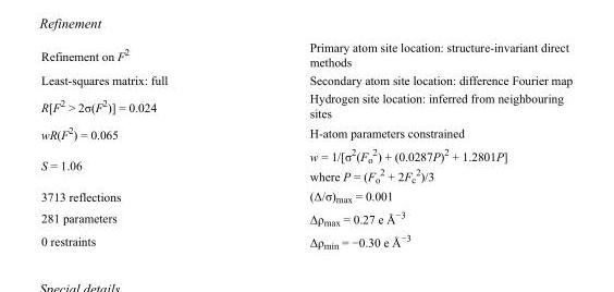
<table><tbody><tr><td>Refinement on F<sup>2</sup></td><td>Primary atom site location: structure-invariant direct methods</td></tr><tr><td>Least-squares matrix: full</td><td>Secondary atom site location: difference Fourier map</td></tr><tr><td>R[F<sup>2</sup> &gt; 2σ(F<sup>2</sup>)] = 0.024</td><td>Hydrogen site location: inferred from neighbouring sites</td></tr><tr><td>wR(F<sup>2</sup>) = 0.065</td><td>H-atom parameters constrained</td></tr><tr><td>S = 1.06</td><td>w = 1/[σ<sup>2</sup>(F<sub>o</sub> <sup>2</sup>) + (0.0287P)<sup>2</sup> + 1.2801P] where P = (F<sub>o</sub> <sup>2</sup> + 2F<sub>c</sub> <sup>2</sup>)/3</td></tr><tr><td>3713 reflections</td><td>(Δ/σ)<sub>max</sub> = 0.001</td></tr><tr><td>281 parameters</td><td>Δρ<sub>max</sub> = 0.27 e Å<sup>−3</sup></td></tr><tr><td>0 restraints</td><td>Δρ<sub>min</sub> = −0.30 e Å<sup>−3</sup></td></tr></tbody></table>